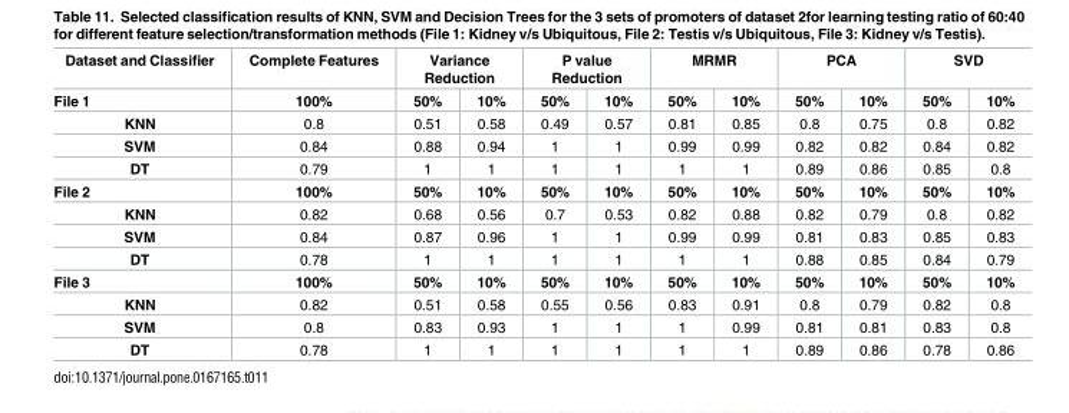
<table><thead><tr><td rowspan="2">Dataset and Classifier File 1</td><td rowspan="2">Complete Features 100%</td><td colspan="2">Variance Reduction</td><td colspan="2">P value Reduction</td><td colspan="2">MRMR</td><td colspan="2">PCA</td><td colspan="2">SVD</td></tr><tr><td>50%</td><td>10%</td><td>50%</td><td>10%</td><td>50%</td><td>10%</td><td>50%</td><td>10%</td><td>50%</td><td>10%</td></tr></thead><tbody><tr><td>KNN</td><td>0.8</td><td>0.51</td><td>0.58</td><td>0.49</td><td>0.57</td><td>0.81</td><td>0.85</td><td>0.8</td><td>0.75</td><td>0.8</td><td>0.82</td></tr><tr><td>SVM</td><td>0.84</td><td>0.88</td><td>0.94</td><td>1</td><td>1</td><td>0.99</td><td>0.99</td><td>0.82</td><td>0.82</td><td>0.84</td><td>0.82</td></tr><tr><td>DT</td><td>0.79</td><td>1</td><td>1</td><td>1</td><td>1</td><td>1</td><td>1</td><td>0.89</td><td>0.86</td><td>0.85</td><td>0.8</td></tr><tr><td>File 2</td><td>100%</td><td>50%</td><td>10%</td><td>50%</td><td>10%</td><td>50%</td><td>10%</td><td>50%</td><td>10%</td><td>50%</td><td>10%</td></tr><tr><td>KNN</td><td>0.82</td><td>0.68</td><td>0.56</td><td>0.7</td><td>0.53</td><td>0.82</td><td>0.88</td><td>0.82</td><td>0.79</td><td>0.8</td><td>0.82</td></tr><tr><td>SVM</td><td>0.84</td><td>0.87</td><td>0.96</td><td>1</td><td>1</td><td>0.99</td><td>0.99</td><td>0.81</td><td>0.83</td><td>0.85</td><td>0.83</td></tr><tr><td>DT</td><td>0.78</td><td>1</td><td>1</td><td>1</td><td>1</td><td>1</td><td>1</td><td>0.88</td><td>0.85</td><td>0.84</td><td>0.79</td></tr><tr><td>File 3</td><td>100%</td><td>50%</td><td>10%</td><td>50%</td><td>10%</td><td>50%</td><td>10%</td><td>50%</td><td>10%</td><td>50%</td><td>10%</td></tr><tr><td>KNN</td><td>0.82</td><td>0.51</td><td>0.58</td><td>0.55</td><td>0.56</td><td>0.83</td><td>0.91</td><td>0.8</td><td>0.79</td><td>0.82</td><td>0.8</td></tr><tr><td>SVM</td><td>0.8</td><td>0.83</td><td>0.93</td><td>1</td><td>1</td><td>1</td><td>0.99</td><td>0.81</td><td>0.81</td><td>0.83</td><td>0.8</td></tr><tr><td>DT</td><td>0.78</td><td>1</td><td>1</td><td>1</td><td>1</td><td>1</td><td>1</td><td>0.89</td><td>0.86</td><td>0.78</td><td>0.86</td></tr></tbody></table>